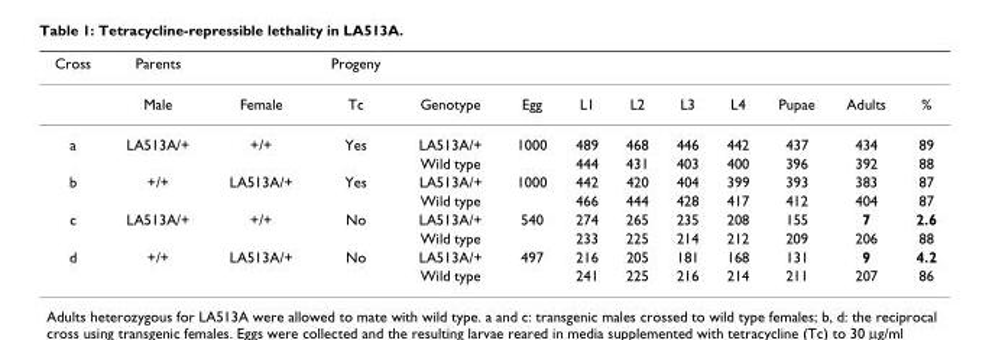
<table><thead><tr><td>Cross</td><td>Parents</td><td></td><td>Progeny</td><td></td><td></td><td></td><td></td><td></td><td></td><td></td><td></td><td></td></tr></thead><tbody><tr><td></td><td>Male</td><td>Female</td><td>Tc</td><td>Genotype</td><td>Egg</td><td>L1</td><td>L2</td><td>L3</td><td>L4</td><td>Pupae</td><td>Adults</td><td>%</td></tr><tr><td rowspan="2">a</td><td>LA513A/+</td><td>+/+</td><td>Yes</td><td>LA513A/+</td><td>1000</td><td>489</td><td>468</td><td>446</td><td>442</td><td>437</td><td>434</td><td>89</td></tr><tr><td></td><td></td><td></td><td>Wild type</td><td></td><td>444</td><td>431</td><td>403</td><td>400</td><td>396</td><td>392</td><td>88</td></tr><tr><td rowspan="2">b</td><td>+/+</td><td>LA513A/+</td><td>Yes</td><td>LA513A/+</td><td>1000</td><td>442</td><td>420</td><td>404</td><td>399</td><td>393</td><td>383</td><td>87</td></tr><tr><td></td><td></td><td></td><td>Wild type</td><td></td><td>466</td><td>444</td><td>428</td><td>417</td><td>412</td><td>404</td><td>87</td></tr><tr><td rowspan="2">c</td><td>LA513A/+</td><td>+/+</td><td>No</td><td>LA513A/+</td><td>540</td><td>274</td><td>265</td><td>235</td><td>208</td><td>155</td><td>7</td><td>2.6</td></tr><tr><td></td><td></td><td></td><td>Wild type</td><td></td><td>233</td><td>225</td><td>214</td><td>212</td><td>209</td><td>206</td><td>88</td></tr><tr><td rowspan="2">d</td><td>+/+</td><td>LA513A/+</td><td>No</td><td>LA513A/+</td><td>497</td><td>216</td><td>205</td><td>181</td><td>168</td><td>131</td><td>9</td><td>4.2</td></tr><tr><td></td><td></td><td></td><td>Wild type</td><td></td><td>241</td><td>225</td><td>216</td><td>214</td><td>211</td><td>207</td><td>86</td></tr></tbody></table>